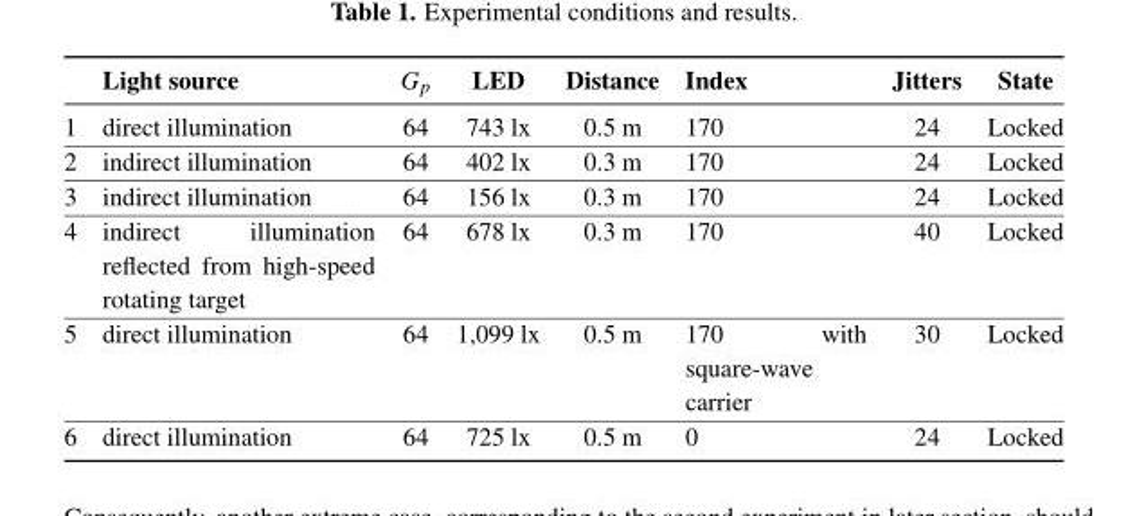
<table><thead><tr><td></td><td>Light source</td><td>G<sub>p</sub></td><td>LED</td><td>Distance</td><td>Index</td><td>Jitters</td><td>State</td></tr></thead><tbody><tr><td>1</td><td>direct illumination</td><td>64</td><td>743 lx</td><td>0.5 m</td><td>170</td><td>24</td><td>Locked</td></tr><tr><td>2</td><td>indirect illumination</td><td>64</td><td>402 lx</td><td>0.3 m</td><td>170</td><td>24</td><td>Locked</td></tr><tr><td>3</td><td>indirect illumination</td><td>64</td><td>156 lx</td><td>0.3 m</td><td>170</td><td>24</td><td>Locked</td></tr><tr><td>4</td><td>indirect illumination reflected from high-speed rotating target</td><td>64</td><td>678 lx</td><td>0.3 m</td><td>170</td><td>40</td><td>Locked</td></tr><tr><td>5</td><td>direct illumination</td><td>64</td><td>1,099 lx</td><td>0.5 m</td><td>170 with square-wave carrier</td><td>30</td><td>Locked</td></tr><tr><td>6</td><td>direct illumination</td><td>64</td><td>725 lx</td><td>0.5 m</td><td>0</td><td>24</td><td>Locked</td></tr></tbody></table>